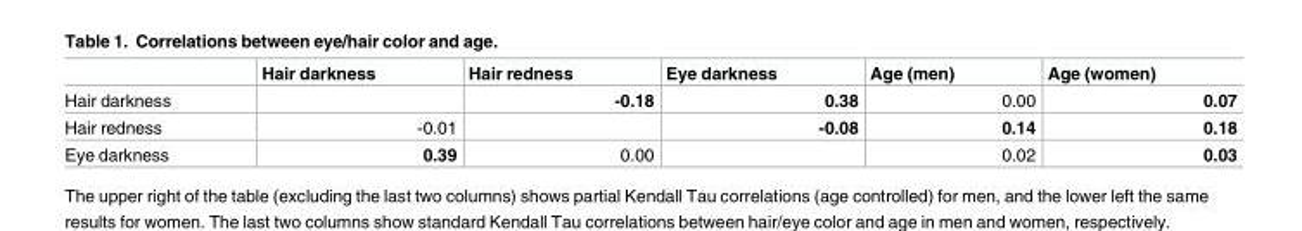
<table><thead><tr><td></td><td>Hair darkness</td><td>Hair redness</td><td>Eye darkness</td><td>Age (men)</td><td>Age (women)</td></tr></thead><tbody><tr><td>Hair darkness</td><td></td><td>-0.18</td><td>0.38</td><td>0.00</td><td>0.07</td></tr><tr><td>Hair redness</td><td>-0.01</td><td></td><td>-0.08</td><td>0.14</td><td>0.18</td></tr><tr><td>Eye darkness</td><td>0.39</td><td>0.00</td><td></td><td>0.02</td><td>0.03</td></tr></tbody></table>